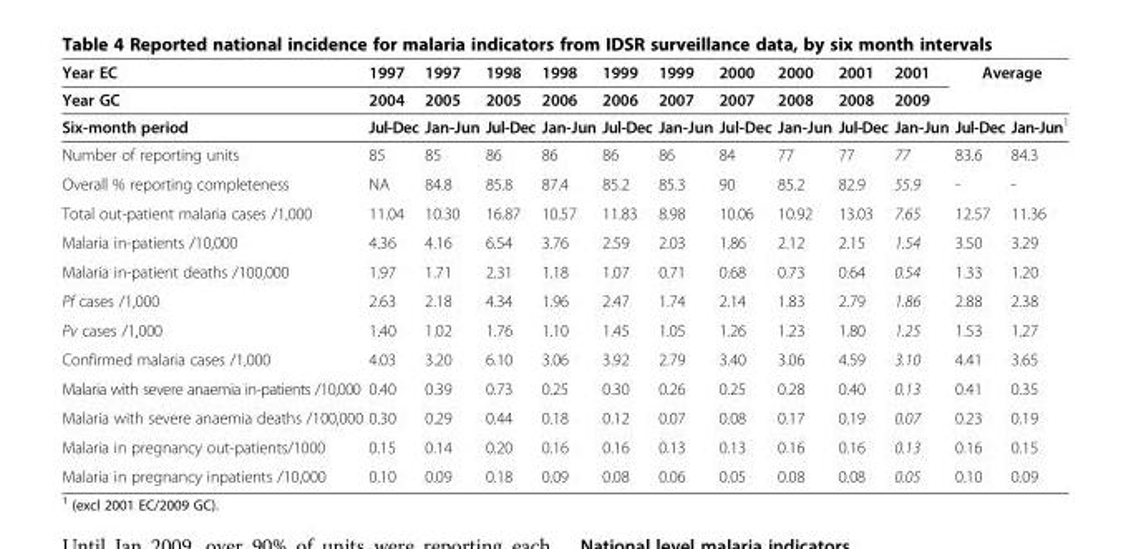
<table><thead><tr><td rowspan="3">Year EC Year GC Six-month period</td><td rowspan="3">1997 2004 Jul-Dec</td><td rowspan="3">1997 2005 Jan-Jun</td><td rowspan="3">1998 2005 Jul-Dec</td><td rowspan="3">1998 2006 Jan-Jun</td><td rowspan="3">1999 2006 Jul-Dec</td><td rowspan="3">1999 2007 Jan-Jun</td><td rowspan="3">2000 2007 Jul-Dec</td><td rowspan="3">2000 2008 Jan-Jun</td><td rowspan="3">2001 2008 Jul-Dec</td><td rowspan="3">2001 2009 Jan-Jun</td><td colspan="2">Average</td></tr><tr><td rowspan="2">Jul-Dec</td><td rowspan="2">Jan-Jun<sup>1</sup></td></tr><tr></tr></thead><tbody><tr><td>Number of reporting units</td><td>85</td><td>85</td><td>86</td><td>86</td><td>86</td><td>86</td><td>84</td><td>77</td><td>77</td><td>77</td><td>83.6</td><td>84.3</td></tr><tr><td>Overall % reporting completeness</td><td>NA</td><td>84.8</td><td>85.8</td><td>87.4</td><td>85.2</td><td>85.3</td><td>90</td><td>85.2</td><td>82.9</td><td>55.9</td><td>-</td><td>-</td></tr><tr><td>Total out-patient malaria cases /1,000</td><td>11.04</td><td>10.30</td><td>16.87</td><td>10.57</td><td>11.83</td><td>8.98</td><td>10.06</td><td>10.92</td><td>13.03</td><td>7.65</td><td>12.57</td><td>11.36</td></tr><tr><td>Malaria in-patients /10,000</td><td>4.36</td><td>4.16</td><td>6.54</td><td>3.76</td><td>2.59</td><td>2.03</td><td>1.86</td><td>2.12</td><td>2.15</td><td>1.54</td><td>3.50</td><td>3.29</td></tr><tr><td>Malaria in-patient deaths /100,000</td><td>1.97</td><td>1.71</td><td>2.31</td><td>1.18</td><td>1.07</td><td>0.71</td><td>0.68</td><td>0.73</td><td>0.64</td><td>0.54</td><td>1.33</td><td>1.20</td></tr><tr><td>Pf cases /1,000</td><td>2.63</td><td>2.18</td><td>4.34</td><td>1.96</td><td>2.47</td><td>1.74</td><td>2.14</td><td>1.83</td><td>2.79</td><td>1.86</td><td>2.88</td><td>2.38</td></tr><tr><td>Pv cases /1,000</td><td>1.40</td><td>1.02</td><td>1.76</td><td>1.10</td><td>1.45</td><td>1.05</td><td>1.26</td><td>1.23</td><td>1.80</td><td>1.25</td><td>1.53</td><td>1.27</td></tr><tr><td>Confirmed malaria cases /1,000</td><td>4.03</td><td>3.20</td><td>6.10</td><td>3.06</td><td>3.92</td><td>2.79</td><td>3.40</td><td>3.06</td><td>4.59</td><td>3.10</td><td>4.41</td><td>3.65</td></tr><tr><td>Malaria with severe anaemia in-patients /10,000</td><td>0.40</td><td>0.39</td><td>0.73</td><td>0.25</td><td>0.30</td><td>0.26</td><td>0.25</td><td>0.28</td><td>0.40</td><td>0.13</td><td>0.41</td><td>0.35</td></tr><tr><td>Malaria with severe anaemia deaths /100,000</td><td>0.30</td><td>0.29</td><td>0.44</td><td>0.18</td><td>0.12</td><td>0.07</td><td>0.08</td><td>0.17</td><td>0.19</td><td>0.07</td><td>0.23</td><td>0.19</td></tr><tr><td>Malaria in pregnancy out-patients/1000</td><td>0.15</td><td>0.14</td><td>0.20</td><td>0.16</td><td>0.16</td><td>0.13</td><td>0.13</td><td>0.16</td><td>0.16</td><td>0.13</td><td>0.16</td><td>0.15</td></tr><tr><td>Malaria in pregnancy inpatients /10,000</td><td>0.10</td><td>0.09</td><td>0.18</td><td>0.09</td><td>0.08</td><td>0.06</td><td>0.05</td><td>0.08</td><td>0.08</td><td>0.05</td><td>0.10</td><td>0.09</td></tr></tbody></table>